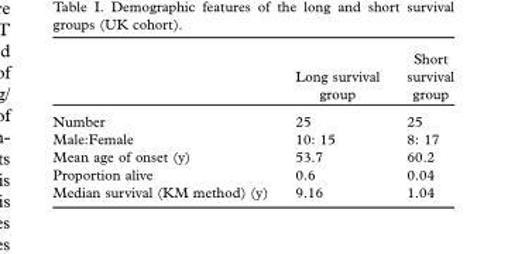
<table><thead><tr><td></td><td>Long survival group</td><td>Short survival group</td></tr></thead><tbody><tr><td>Number</td><td>25</td><td>25</td></tr><tr><td>Male:Female</td><td>10: 15</td><td>8: 17</td></tr><tr><td>Mean age of onset (y)</td><td>53.7</td><td>60.2</td></tr><tr><td>Proportion alive</td><td>0.6</td><td>0.04</td></tr><tr><td>Median survival (KM method) (y)</td><td>9.16</td><td>1.04</td></tr></tbody></table>